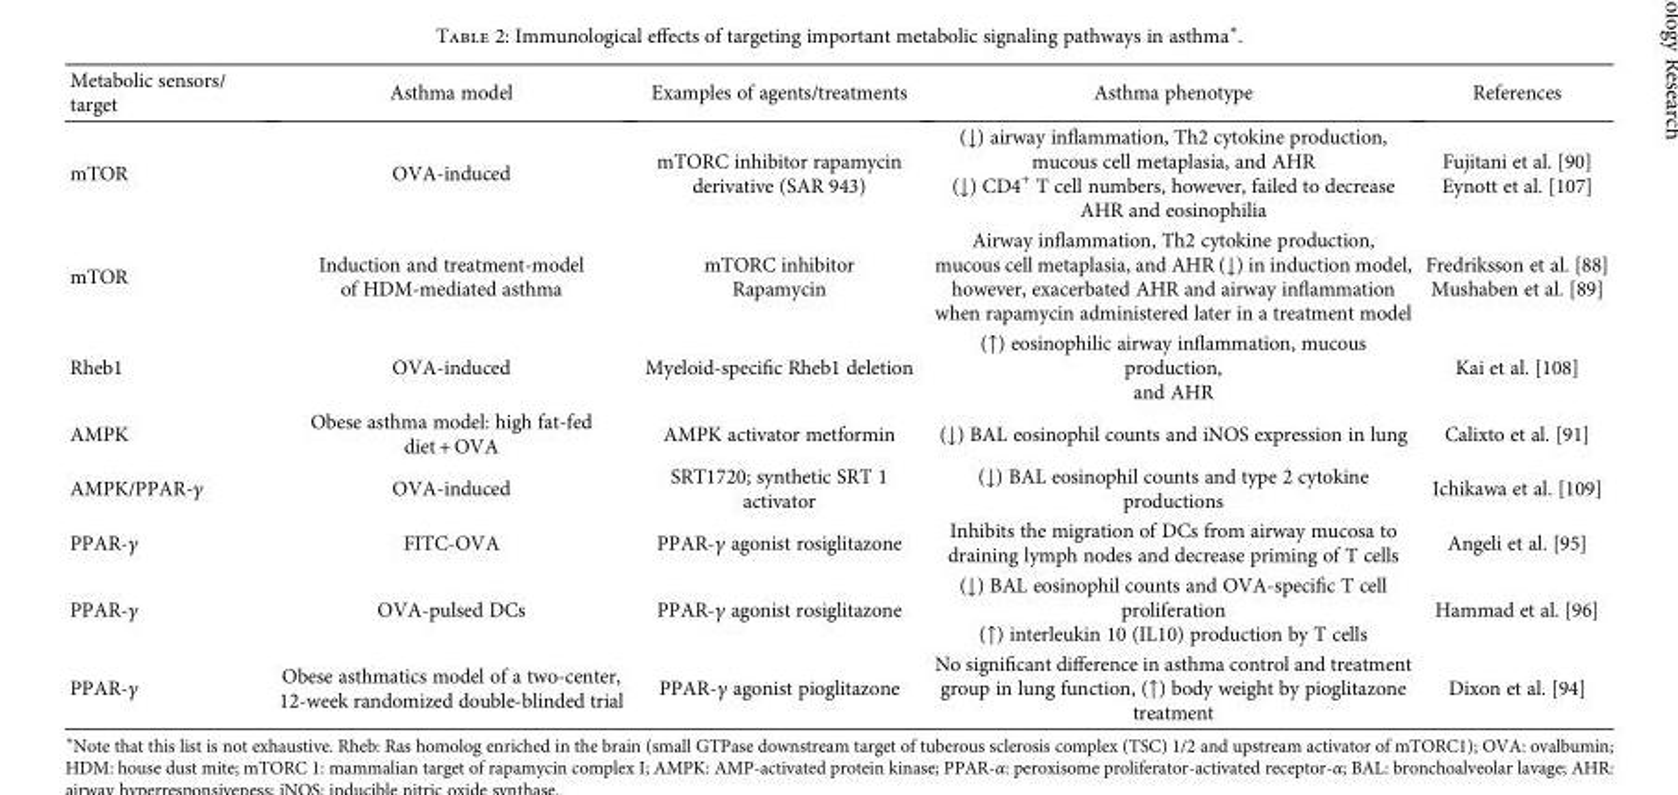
<table><thead><tr><td>Metabolic sensors/ target</td><td>Asthma model</td><td>Examples of agents/treatments</td><td>Asthma phenotype</td><td>References</td></tr></thead><tbody><tr><td>mTOR</td><td>OVA-induced</td><td>mTORC inhibitor rapamycin derivative (SAR 943)</td><td>(↓) airway inflammation, Th2 cytokine production, mucous cell metaplasia, and AHR (↓) CD4<sup>+</sup> T cell numbers, however, failed to decrease AHR and eosinophilia</td><td>Fujitani et al. [90] Eynott et al. [107]</td></tr><tr><td>mTOR</td><td>Induction and treatment-model of HDM-mediated asthma</td><td>mTORC inhibitor Rapamycin</td><td>Airway inflammation, Th2 cytokine production, mucous cell metaplasia, and AHR (↓) in induction model, however, exacerbated AHR and airway inflammation when rapamycin administered later in a treatment model</td><td>Fredriksson et al. [88] Mushaben et al. [89]</td></tr><tr><td>Rheb1</td><td>OVA-induced</td><td>Myeloid-specific Rheb1 deletion</td><td>(↑) eosinophilic airway inflammation, mucous production, and AHR</td><td>Kai et al. [108]</td></tr><tr><td>AMPK</td><td>Obese asthma model: high fat-fed diet + OVA</td><td>AMPK activator metformin</td><td>(↓) BAL eosinophil counts and iNOS expression in lung</td><td>Calixto et al. [91]</td></tr><tr><td>AMPK/PPAR-γ</td><td>OVA-induced</td><td>SRT1720; synthetic SRT 1 activator</td><td>(↓) BAL eosinophil counts and type 2 cytokine productions</td><td>Ichikawa et al. [109]</td></tr><tr><td>PPAR-γ</td><td>FITC-OVA</td><td>PPAR-γ agonist rosiglitazone</td><td>Inhibits the migration of DCs from airway mucosa to draining lymph nodes and decrease priming of T cells</td><td>Angeli et al. [95]</td></tr><tr><td>PPAR-γ</td><td>OVA-pulsed DCs</td><td>PPAR-γ agonist rosiglitazone</td><td>(↓) BAL eosinophil counts and OVA-specific T cell proliferation (↑) interleukin 10 (IL10) production by T cells</td><td>Hammad et al. [96]</td></tr><tr><td>PPAR-γ</td><td>Obese asthmatics model of a two-center, 12-week randomized double-blinded trial</td><td>PPAR-γ agonist pioglitazone</td><td>No significant difference in asthma control and treatment group in lung function, (↑) body weight by pioglitazone treatment</td><td>Dixon et al. [94]</td></tr></tbody></table>